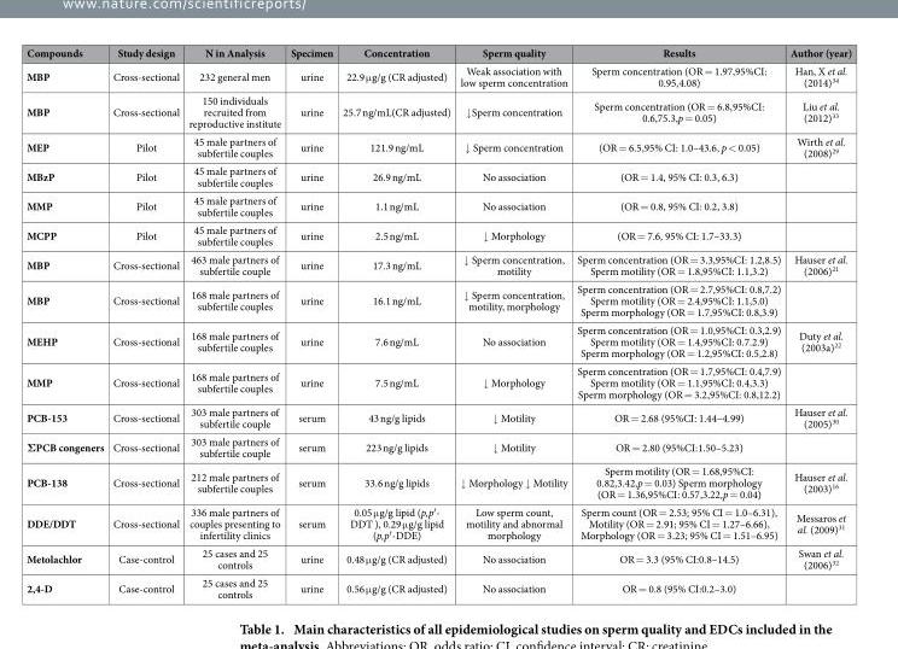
<table><thead><tr><td>Compounds</td><td>Study design</td><td>N in Analysis</td><td>Specimen</td><td>Concentration</td><td>Sperm quality</td><td>Results</td><td>Author (year)</td></tr></thead><tbody><tr><td>MBP</td><td>Cross-sectional</td><td>232 general men</td><td>urine</td><td>22.9 μ g/g (CR adjusted)</td><td>Weak association with low sperm concentration</td><td>Sperm concentration (OR = 1.97,95%CI: 0.95,4.08)</td><td>Han, X et al. (2014)<sup>34</sup></td></tr><tr><td>MBP</td><td>Cross-sectional</td><td>150 individuals recruited from reproductive institute</td><td>urine</td><td>25.7 ng/mL(CR adjusted)</td><td>↓ Sperm concentration</td><td>Sperm concentration (OR = 6.8,95%CI: 0.6,75.3,p = 0.05)</td><td>Liu et al. (2012)<sup>33</sup></td></tr><tr><td>MEP</td><td>Pilot</td><td>45 male partners of subfertile couples</td><td>urine</td><td>121.9 ng/mL</td><td>↓ Sperm concentration</td><td>(OR = 6.5,95% CI: 1.0–43.6, p &lt; 0.05)</td><td>Wirth et al. (2008)<sup>29</sup></td></tr><tr><td>MBzP</td><td>Pilot</td><td>45 male partners of subfertile couples</td><td>urine</td><td>26.9 ng/mL</td><td>No association</td><td>(OR = 1.4, 95% CI: 0.3, 6.3)</td><td></td></tr><tr><td>MMP</td><td>Pilot</td><td>45 male partners of subfertile couples</td><td>urine</td><td>1.1 ng/mL</td><td>No association</td><td>(OR = 0.8, 95% CI: 0.2, 3.8)</td><td></td></tr><tr><td>MCPP</td><td>Pilot</td><td>45 male partners of subfertile couples</td><td>urine</td><td>2.5 ng/mL</td><td>↓ Morphology</td><td>(OR = 7.6, 95% CI: 1.7–33.3)</td><td></td></tr><tr><td>MBP</td><td>Cross-sectional</td><td>463 male partners of subfertile couple</td><td>urine</td><td>17.3 ng/mL</td><td>↓ Sperm concentration, motility</td><td>Sperm concentration (OR = 3.3,95%CI: 1.2,8.5) Sperm motility (OR = 1.8,95%CI: 1.1,3.2)</td><td>Hauser et al. (2006)<sup>21</sup></td></tr><tr><td>MBP</td><td>Cross-sectional</td><td>168 male partners of subfertile couples</td><td>urine</td><td>16.1 ng/mL</td><td>↓ Sperm concentration, motility, morphology</td><td>Sperm concentration (OR = 2.7,95%CI: 0.8,7.2) Sperm motility (OR = 2.4,95%CI: 1.1,5.0) Sperm morphology (OR = 1.7,95%CI: 0.8,3.9)</td><td></td></tr><tr><td>MEHP</td><td>Cross-sectional</td><td>168 male partners of subfertile couples</td><td>urine</td><td>7.6 ng/mL</td><td>No association</td><td>Sperm concentration (OR = 1.0,95%CI: 0.3,2.9) Sperm motility (OR = 1.4,95%CI: 0.7.2.9) Sperm morphology (OR = 1.2,95%CI: 0.5,2.8)</td><td>Duty et al. (2003a)<sup>22</sup></td></tr><tr><td>MMP</td><td>Cross-sectional</td><td>168 male partners of subfertile couples</td><td>urine</td><td>7.5 ng/mL</td><td>↓ Morphology</td><td>Sperm concentration (OR = 1.7,95%CI: 0.4,7.9) Sperm motility (OR = 1.1,95%CI: 0.4,3.3) Sperm morphology (OR = 3.2,95%CI: 0.8,12.2)</td><td></td></tr><tr><td>PCB-153</td><td>Cross-sectional</td><td>303 male partners of subfertile couple</td><td>serum</td><td>43 ng/g lipids</td><td>↓ Motility</td><td>OR = 2.68 (95%CI: 1.44–4.99)</td><td>Hauser et al. (2005)<sup>30</sup></td></tr><tr><td>ΣPCB congeners</td><td>Cross-sectional</td><td>303 male partners of subfertile couple</td><td>serum</td><td>223 ng/g lipids</td><td>↓ Motility</td><td>OR = 2.80 (95%CI:1.50–5.23)</td><td></td></tr><tr><td>PCB-138</td><td>Cross-sectional</td><td>212 male partners of subfertile couples</td><td>serum</td><td>33.6 ng/g lipids</td><td>↓ Morphology ↓ Motility</td><td>Sperm motility (OR = 1.68,95%CI: 0.82,3.42,p = 0.03) Sperm morphology (OR = 1.36,95%CI: 0.57,3.22,p = 0.04)</td><td>Hauser et al. (2003)<sup>16</sup></td></tr><tr><td>DDE/DDT</td><td>Cross-sectional</td><td>336 male partners of couples presenting to infertility clinics</td><td>serum</td><td>0.05 μ g/g lipid (p,p′- DDT ), 0.29 μ g/g lipid (p,p′-DDE)</td><td>Low sperm count, motility and abnormal morphology</td><td>Sperm count (OR = 2.53; 95% CI = 1.0–6.31), Motility (OR = 2.91; 95% CI = 1.27–6.66), Morphology (OR = 3.23; 95% CI = 1.51–6.95)</td><td>Messaros et al. (2009)<sup>31</sup></td></tr><tr><td>Metolachlor</td><td>Case-control</td><td>25 cases and 25 controls</td><td>urine</td><td>0.48 μ g/g (CR adjusted)</td><td>No association</td><td>OR = 3.3 (95% CI:0.8–14.5)</td><td>Swan et al. (2006)<sup>32</sup></td></tr><tr><td>2,4-D</td><td>Case-control</td><td>25 cases and 25 controls</td><td>urine</td><td>0.56 μ g/g (CR adjusted)</td><td>No association</td><td>OR = 0.8 (95% CI:0.2–3.0)</td><td></td></tr></tbody></table>